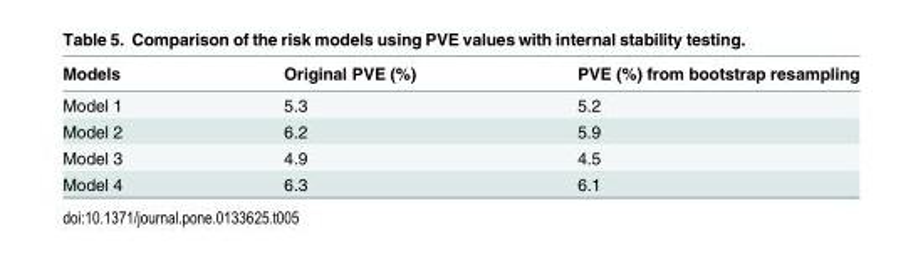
<table><thead><tr><td>Models</td><td>Original PVE (%)</td><td>PVE (%) from bootstrap resampling</td></tr></thead><tbody><tr><td>Model 1</td><td>5.3</td><td>5.2</td></tr><tr><td>Model 2</td><td>6.2</td><td>5.9</td></tr><tr><td>Model 3</td><td>4.9</td><td>4.5</td></tr><tr><td>Model 4</td><td>6.3</td><td>6.1</td></tr></tbody></table>